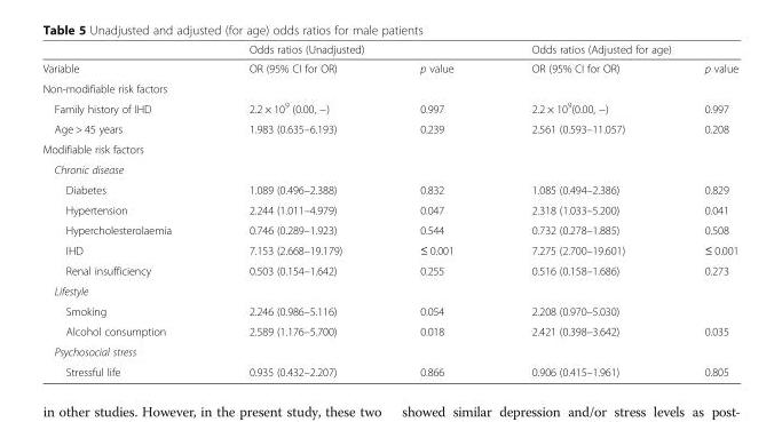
<table><thead><tr><td rowspan="2">Variable</td><td colspan="2">Odds ratios (Unadjusted)</td><td colspan="2">Odds ratios (Adjusted for age)</td></tr><tr><td>OR (95% CI for OR)</td><td>p value</td><td>OR (95% CI for OR)</td><td>p value</td></tr></thead><tbody><tr><td colspan="5">Non-modifiable risk factors</td></tr><tr><td>Family history of IHD</td><td>2.2 × 10<sup>9</sup> (0.00, −)</td><td>0.997</td><td>2.2 × 10<sup>9</sup>(0.00, −)</td><td>0.997</td></tr><tr><td>Age &gt; 45 years</td><td>1.983 (0.635–6.193)</td><td>0.239</td><td>2.561 (0.593–11.057)</td><td>0.208</td></tr><tr><td colspan="5">Modifiable risk factors</td></tr><tr><td colspan="5">Chronic disease</td></tr><tr><td>Diabetes</td><td>1.089 (0.496–2.388)</td><td>0.832</td><td>1.085 (0.494–2.386)</td><td>0.829</td></tr><tr><td>Hypertension</td><td>2.244 (1.011–4.979)</td><td>0.047</td><td>2.318 (1.033–5.200)</td><td>0.041</td></tr><tr><td>Hypercholesterolaemia</td><td>0.746 (0.289–1.923)</td><td>0.544</td><td>0.732 (0.278–1.885)</td><td>0.508</td></tr><tr><td>IHD</td><td>7.153 (2.668–19.179)</td><td>≤ 0.001</td><td>7.275 (2.700–19.601)</td><td>≤ 0.001</td></tr><tr><td>Renal insufficiency</td><td>0.503 (0.154–1.642)</td><td>0.255</td><td>0.516 (0.158–1.686)</td><td>0.273</td></tr><tr><td colspan="5">Lifestyle</td></tr><tr><td>Smoking</td><td>2.246 (0.986–5.116)</td><td>0.054</td><td>2.208 (0.970–5.030)</td><td></td></tr><tr><td>Alcohol consumption</td><td>2.589 (1.176–5.700)</td><td>0.018</td><td>2.421 (0.398–3.642)</td><td>0.035</td></tr><tr><td colspan="5">Psychosocial stress</td></tr><tr><td>Stressful life</td><td>0.935 (0.432–2.207)</td><td>0.866</td><td>0.906 (0.415–1.961)</td><td>0.805</td></tr></tbody></table>